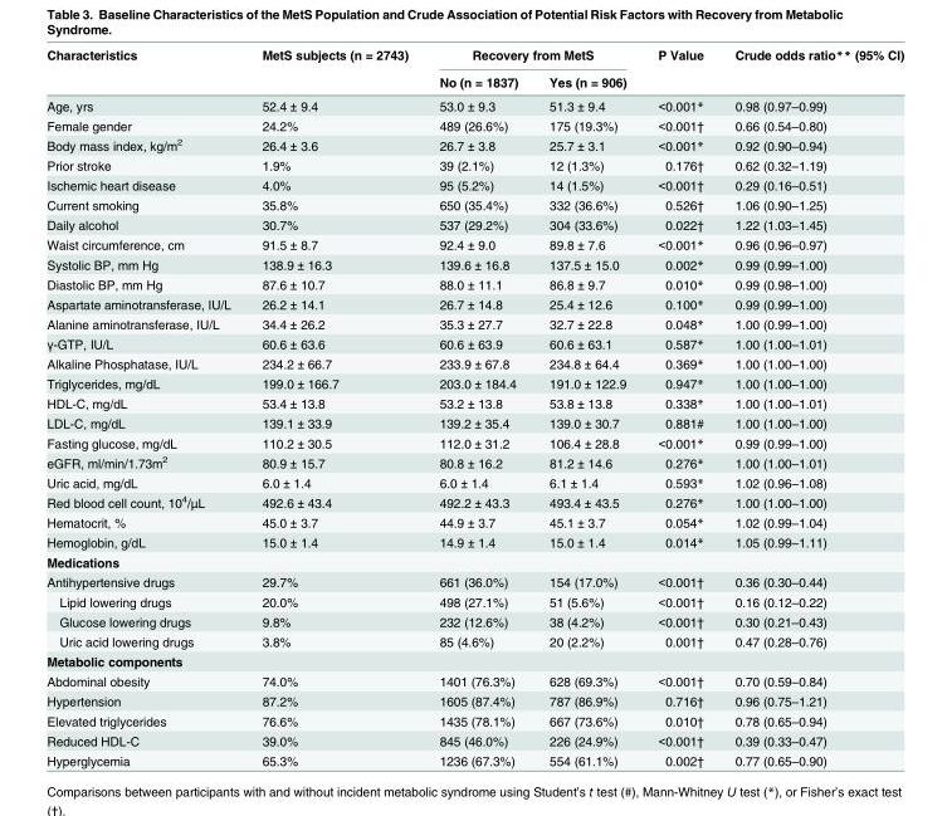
<table><thead><tr><td rowspan="2">Characteristics</td><td rowspan="2">MetS subjects (n = 2743)</td><td colspan="2">Recovery from MetS</td><td rowspan="2">P Value</td><td rowspan="2">Crude odds ratio** (95% CI)</td></tr><tr><td>No (n = 1837)</td><td>Yes (n = 906)</td></tr></thead><tbody><tr><td>Age, yrs</td><td>52.4 ± 9.4</td><td>53.0 ± 9.3</td><td>51.3 ± 9.4</td><td>&lt;0.001*</td><td>0.98 (0.97–0.99)</td></tr><tr><td>Female gender</td><td>24.2%</td><td>489 (26.6%)</td><td>175 (19.3%)</td><td>&lt;0.001†</td><td>0.66 (0.54–0.80)</td></tr><tr><td>Body mass index, kg/m<sup>2</sup></td><td>26.4 ± 3.6</td><td>26.7 ± 3.8</td><td>25.7 ± 3.1</td><td>&lt;0.001*</td><td>0.92 (0.90–0.94)</td></tr><tr><td>Prior stroke</td><td>1.9%</td><td>39 (2.1%)</td><td>12 (1.3%)</td><td>0.176†</td><td>0.62 (0.32–1.19)</td></tr><tr><td>Ischemic heart disease</td><td>4.0%</td><td>95 (5.2%)</td><td>14 (1.5%)</td><td>&lt;0.001†</td><td>0.29 (0.16–0.51)</td></tr><tr><td>Current smoking</td><td>35.8%</td><td>650 (35.4%)</td><td>332 (36.6%)</td><td>0.526†</td><td>1.06 (0.90–1.25)</td></tr><tr><td>Daily alcohol</td><td>30.7%</td><td>537 (29.2%)</td><td>304 (33.6%)</td><td>0.022†</td><td>1.22 (1.03–1.45)</td></tr><tr><td>Waist circumference, cm</td><td>91.5 ± 8.7</td><td>92.4 ± 9.0</td><td>89.8 ± 7.6</td><td>&lt;0.001*</td><td>0.96 (0.96–0.97)</td></tr><tr><td>Systolic BP, mm Hg</td><td>138.9 ± 16.3</td><td>139.6 ± 16.8</td><td>137.5 ± 15.0</td><td>0.002*</td><td>0.99 (0.99–1.00)</td></tr><tr><td>Diastolic BP, mm Hg</td><td>87.6 ± 10.7</td><td>88.0 ± 11.1</td><td>86.8 ± 9.7</td><td>0.010*</td><td>0.99 (0.98–1.00)</td></tr><tr><td>Aspartate aminotransferase, IU/L</td><td>26.2 ± 14.1</td><td>26.7 ± 14.8</td><td>25.4 ± 12.6</td><td>0.100*</td><td>0.99 (0.99–1.00)</td></tr><tr><td>Alanine aminotransferase, IU/L</td><td>34.4 ± 26.2</td><td>35.3 ± 27.7</td><td>32.7 ± 22.8</td><td>0.048*</td><td>1.00 (0.99–1.00)</td></tr><tr><td>γ-GTP, IU/L</td><td>60.6 ± 63.6</td><td>60.6 ± 63.9</td><td>60.6 ± 63.1</td><td>0.587*</td><td>1.00 (1.00–1.01)</td></tr><tr><td>Alkaline Phosphatase, IU/L</td><td>234.2 ± 66.7</td><td>233.9 ± 67.8</td><td>234.8 ± 64.4</td><td>0.369*</td><td>1.00 (1.00–1.00)</td></tr><tr><td>Triglycerides, mg/dL</td><td>199.0 ± 166.7</td><td>203.0 ± 184.4</td><td>191.0 ± 122.9</td><td>0.947*</td><td>1.00 (1.00–1.00)</td></tr><tr><td>HDL-C, mg/dL</td><td>53.4 ± 13.8</td><td>53.2 ± 13.8</td><td>53.8 ± 13.8</td><td>0.338*</td><td>1.00 (1.00–1.01)</td></tr><tr><td>LDL-C, mg/dL</td><td>139.1 ± 33.9</td><td>139.2 ± 35.4</td><td>139.0 ± 30.7</td><td>0.881#</td><td>1.00 (1.00–1.00)</td></tr><tr><td>Fasting glucose, mg/dL</td><td>110.2 ± 30.5</td><td>112.0 ± 31.2</td><td>106.4 ± 28.8</td><td>&lt;0.001*</td><td>0.99 (0.99–1.00)</td></tr><tr><td>eGFR, ml/min/1.73m<sup>2</sup></td><td>80.9 ± 15.7</td><td>80.8 ± 16.2</td><td>81.2 ± 14.6</td><td>0.276*</td><td>1.00 (1.00–1.01)</td></tr><tr><td>Uric acid, mg/dL</td><td>6.0 ± 1.4</td><td>6.0 ± 1.4</td><td>6.1 ± 1.4</td><td>0.593*</td><td>1.02 (0.96–1.08)</td></tr><tr><td>Red blood cell count, 10<sup>4</sup>/μL</td><td>492.6 ± 43.4</td><td>492.2 ± 43.3</td><td>493.4 ± 43.5</td><td>0.276*</td><td>1.00 (1.00–1.00)</td></tr><tr><td>Hematocrit, %</td><td>45.0 ± 3.7</td><td>44.9 ± 3.7</td><td>45.1 ± 3.7</td><td>0.054*</td><td>1.02 (0.99–1.04)</td></tr><tr><td>Hemoglobin, g/dL</td><td>15.0 ± 1.4</td><td>14.9 ± 1.4</td><td>15.0 ± 1.4</td><td>0.014*</td><td>1.05 (0.99–1.11)</td></tr><tr><td colspan="6">Medications</td></tr><tr><td>Antihypertensive drugs</td><td>29.7%</td><td>661 (36.0%)</td><td>154 (17.0%)</td><td>&lt;0.001†</td><td>0.36 (0.30–0.44)</td></tr><tr><td>Lipid lowering drugs</td><td>20.0%</td><td>498 (27.1%)</td><td>51 (5.6%)</td><td>&lt;0.001†</td><td>0.16 (0.12–0.22)</td></tr><tr><td>Glucose lowering drugs</td><td>9.8%</td><td>232 (12.6%)</td><td>38 (4.2%)</td><td>&lt;0.001†</td><td>0.30 (0.21–0.43)</td></tr><tr><td>Uric acid lowering drugs</td><td>3.8%</td><td>85 (4.6%)</td><td>20 (2.2%)</td><td>0.001†</td><td>0.47 (0.28–0.76)</td></tr><tr><td colspan="6">Metabolic components</td></tr><tr><td>Abdominal obesity</td><td>74.0%</td><td>1401 (76.3%)</td><td>628 (69.3%)</td><td>&lt;0.001†</td><td>0.70 (0.59–0.84)</td></tr><tr><td>Hypertension</td><td>87.2%</td><td>1605 (87.4%)</td><td>787 (86.9%)</td><td>0.716†</td><td>0.96 (0.75–1.21)</td></tr><tr><td>Elevated triglycerides</td><td>76.6%</td><td>1435 (78.1%)</td><td>667 (73.6%)</td><td>0.010†</td><td>0.78 (0.65–0.94)</td></tr><tr><td>Reduced HDL-C</td><td>39.0%</td><td>845 (46.0%)</td><td>226 (24.9%)</td><td>&lt;0.001†</td><td>0.39 (0.33–0.47)</td></tr><tr><td>Hyperglycemia</td><td>65.3%</td><td>1236 (67.3%)</td><td>554 (61.1%)</td><td>0.002†</td><td>0.77 (0.65–0.90)</td></tr></tbody></table>